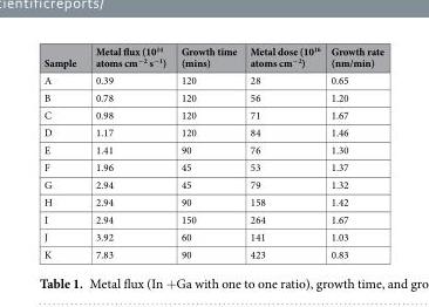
<table><thead><tr><td>Sample</td><td>Metal flux (10<sup>14</sup> atoms cm<sup>−2</sup> s<sup>−1</sup>)</td><td>Growth time (mins)</td><td>Metal dose (10<sup>16</sup> atoms cm<sup>−2</sup>)</td><td>Growth rate (nm/min)</td></tr></thead><tbody><tr><td>A</td><td>0.39</td><td>120</td><td>28</td><td>0.65</td></tr><tr><td>B</td><td>0.78</td><td>120</td><td>56</td><td>1.20</td></tr><tr><td>C</td><td>0.98</td><td>120</td><td>71</td><td>1.67</td></tr><tr><td>D</td><td>1.17</td><td>120</td><td>84</td><td>1.46</td></tr><tr><td>E</td><td>1.41</td><td>90</td><td>76</td><td>1.30</td></tr><tr><td>F</td><td>1.96</td><td>45</td><td>53</td><td>1.37</td></tr><tr><td>G</td><td>2.94</td><td>45</td><td>79</td><td>1.32</td></tr><tr><td>H</td><td>2.94</td><td>90</td><td>158</td><td>1.42</td></tr><tr><td>I</td><td>2.94</td><td>150</td><td>264</td><td>1.67</td></tr><tr><td>J</td><td>3.92</td><td>60</td><td>141</td><td>1.03</td></tr><tr><td>K</td><td>7.83</td><td>90</td><td>423</td><td>0.83</td></tr></tbody></table>